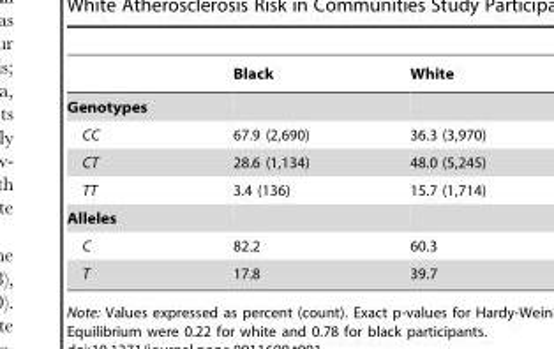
<table><thead><tr><td></td><td>Black</td><td>White</td></tr></thead><tbody><tr><td colspan="3">Genotypes</td></tr><tr><td>CC</td><td>67.9 (2,690)</td><td>36.3 (3,970)</td></tr><tr><td>CT</td><td>28.6 (1,134)</td><td>48.0 (5,245)</td></tr><tr><td>TT</td><td>3.4 (136)</td><td>15.7 (1,714)</td></tr><tr><td colspan="3">Alleles</td></tr><tr><td>C</td><td>82.2</td><td>60.3</td></tr><tr><td>T</td><td>17.8</td><td>39.7</td></tr></tbody></table>